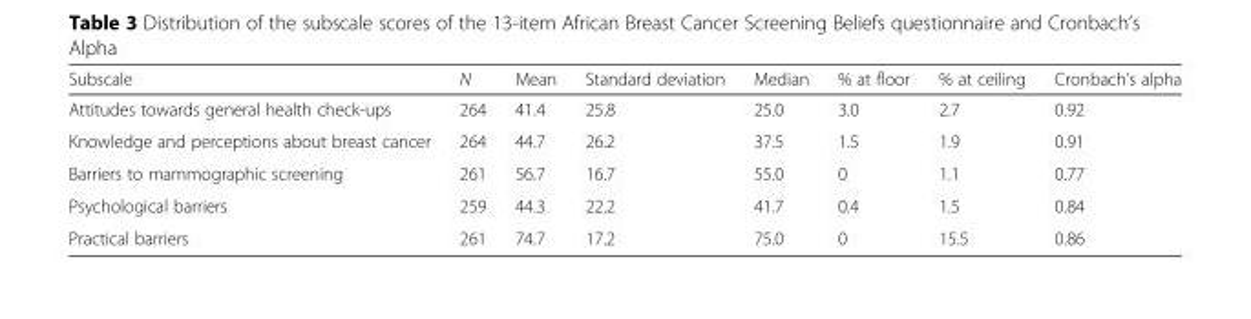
<table><thead><tr><td>Subscale</td><td>N</td><td>Mean</td><td>Standard deviation</td><td>Median</td><td>% at floor</td><td>% at ceiling</td><td>Cronbach’s alpha</td></tr></thead><tbody><tr><td>Attitudes towards general health check-ups</td><td>264</td><td>41.4</td><td>25.8</td><td>25.0</td><td>3.0</td><td>2.7</td><td>0.92</td></tr><tr><td>Knowledge and perceptions about breast cancer</td><td>264</td><td>44.7</td><td>26.2</td><td>37.5</td><td>1.5</td><td>1.9</td><td>0.91</td></tr><tr><td>Barriers to mammographic screening</td><td>261</td><td>56.7</td><td>16.7</td><td>55.0</td><td>0</td><td>1.1</td><td>0.77</td></tr><tr><td>Psychological barriers</td><td>259</td><td>44.3</td><td>22.2</td><td>41.7</td><td>0.4</td><td>1.5</td><td>0.84</td></tr><tr><td>Practical barriers</td><td>261</td><td>74.7</td><td>17.2</td><td>75.0</td><td>0</td><td>15.5</td><td>0.86</td></tr></tbody></table>